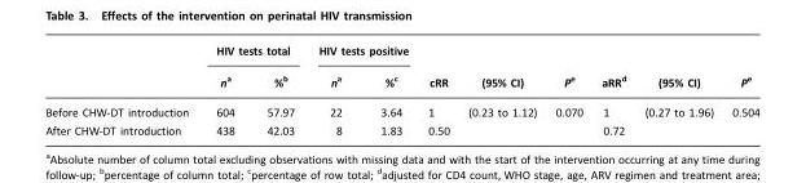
<table><thead><tr><td rowspan="2"></td><td colspan="2">HIV tests total</td><td colspan="2">HIV tests positive</td><td rowspan="2">cRR</td><td rowspan="2">(95% CI)</td><td rowspan="2">Pe</td><td rowspan="2">aRR<sup>d</sup></td><td rowspan="2">(95% CI)</td><td rowspan="2">Pe</td></tr><tr><td>na</td><td>%b</td><td>na</td><td>%<sup>c</sup></td></tr></thead><tbody><tr><td>Before CHW-DT introduction</td><td>604</td><td>57.97</td><td>22</td><td>3.64</td><td>1</td><td>(0.23 to 1.12)</td><td>0.070</td><td>1</td><td>(0.27 to 1.96)</td><td>0.504</td></tr><tr><td>After CHW-DT introduction</td><td>438</td><td>42.03</td><td>8</td><td>1.83</td><td>0.50</td><td></td><td></td><td>0.72</td><td></td><td></td></tr></tbody></table>